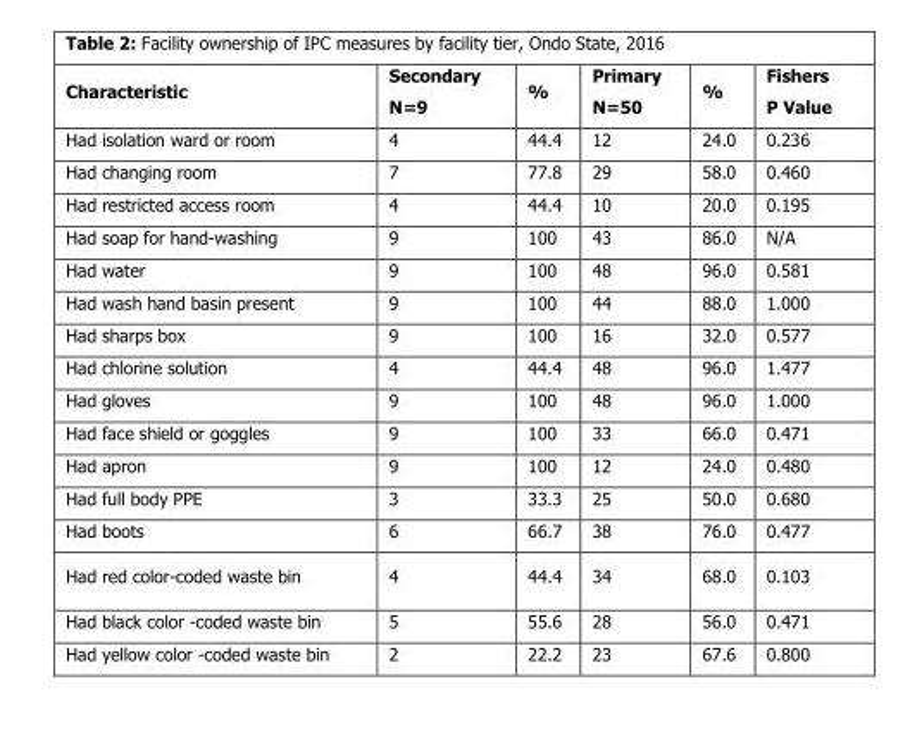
<table><thead><tr><td>Characteristic</td><td>Secondary N=9</td><td>%</td><td>Primary N=50</td><td>%</td><td>Fishers P Value</td></tr></thead><tbody><tr><td>Had isolation ward or room</td><td>4</td><td>44.4</td><td>12</td><td>24.0</td><td>0.236</td></tr><tr><td>Had changing room</td><td>7</td><td>77.8</td><td>29</td><td>58.0</td><td>0.460</td></tr><tr><td>Had restricted access room</td><td>4</td><td>44.4</td><td>10</td><td>20.0</td><td>0.195</td></tr><tr><td>Had soap for hand-washing</td><td>9</td><td>100</td><td>43</td><td>86.0</td><td>N/A</td></tr><tr><td>Had water</td><td>9</td><td>100</td><td>48</td><td>96.0</td><td>0.581</td></tr><tr><td>Had wash hand basin present</td><td>9</td><td>100</td><td>44</td><td>88.0</td><td>1.000</td></tr><tr><td>Had sharps box</td><td>9</td><td>100</td><td>16</td><td>32.0</td><td>0.577</td></tr><tr><td>Had chlorine solution</td><td>4</td><td>44.4</td><td>48</td><td>96.0</td><td>1.477</td></tr><tr><td>Had gloves</td><td>9</td><td>100</td><td>48</td><td>96.0</td><td>1.000</td></tr><tr><td>Had face shield or goggles</td><td>9</td><td>100</td><td>33</td><td>66.0</td><td>0.471</td></tr><tr><td>Had apron</td><td>9</td><td>100</td><td>12</td><td>24.0</td><td>0.480</td></tr><tr><td>Had full body PPE</td><td>3</td><td>33.3</td><td>25</td><td>50.0</td><td>0.680</td></tr><tr><td>Had boots</td><td>6</td><td>66.7</td><td>38</td><td>76.0</td><td>0.477</td></tr><tr><td>Had red color-coded waste bin</td><td>4</td><td>44.4</td><td>34</td><td>68.0</td><td>0.103</td></tr><tr><td>Had black color -coded waste bin</td><td>5</td><td>55.6</td><td>28</td><td>56.0</td><td>0.471</td></tr><tr><td>Had yellow color -coded waste bin</td><td>2</td><td>22.2</td><td>23</td><td>67.6</td><td>0.800</td></tr></tbody></table>